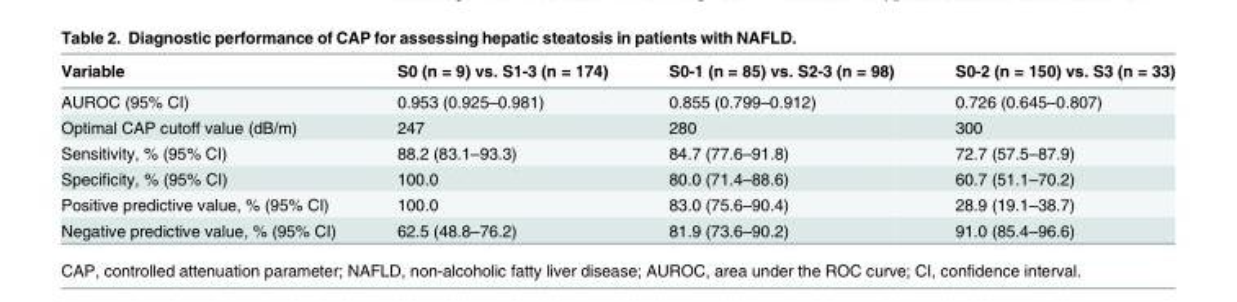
<table><thead><tr><td>Variable</td><td>S0 (n = 9) vs. S1-3 (n = 174)</td><td>S0-1 (n = 85) vs. S2-3 (n = 98)</td><td>S0-2 (n = 150) vs. S3 (n = 33)</td></tr></thead><tbody><tr><td>AUROC (95% CI)</td><td>0.953 (0.925–0.981)</td><td>0.855 (0.799–0.912)</td><td>0.726 (0.645–0.807)</td></tr><tr><td>Optimal CAP cutoff value (dB/m)</td><td>247</td><td>280</td><td>300</td></tr><tr><td>Sensitivity, % (95% CI)</td><td>88.2 (83.1–93.3)</td><td>84.7 (77.6–91.8)</td><td>72.7 (57.5–87.9)</td></tr><tr><td>Specificity, % (95% CI)</td><td>100.0</td><td>80.0 (71.4–88.6)</td><td>60.7 (51.1–70.2)</td></tr><tr><td>Positive predictive value, % (95% CI)</td><td>100.0</td><td>83.0 (75.6–90.4)</td><td>28.9 (19.1–38.7)</td></tr><tr><td>Negative predictive value, % (95% CI)</td><td>62.5 (48.8–76.2)</td><td>81.9 (73.6–90.2)</td><td>91.0 (85.4–96.6)</td></tr></tbody></table>